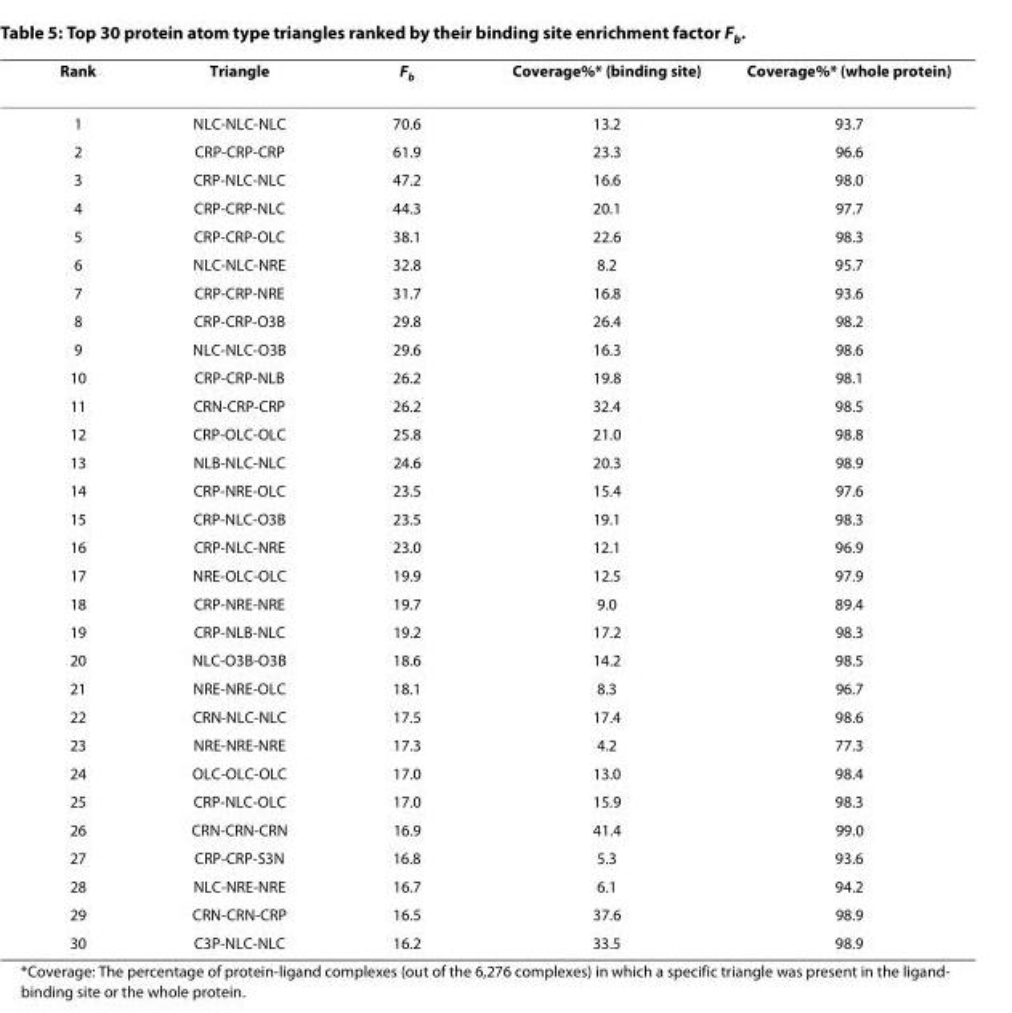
<table><thead><tr><td>Rank</td><td>Triangle</td><td>F<sub>b</sub></td><td>Coverage%* (binding site)</td><td>Coverage%* (whole protein)</td></tr></thead><tbody><tr><td>1</td><td>NLC-NLC-NLC</td><td>70.6</td><td>13.2</td><td>93.7</td></tr><tr><td>2</td><td>CRP-CRP-CRP</td><td>61.9</td><td>23.3</td><td>96.6</td></tr><tr><td>3</td><td>CRP-NLC-NLC</td><td>47.2</td><td>16.6</td><td>98.0</td></tr><tr><td>4</td><td>CRP-CRP-NLC</td><td>44.3</td><td>20.1</td><td>97.7</td></tr><tr><td>5</td><td>CRP-CRP-OLC</td><td>38.1</td><td>22.6</td><td>98.3</td></tr><tr><td>6</td><td>NLC-NLC-NRE</td><td>32.8</td><td>8.2</td><td>95.7</td></tr><tr><td>7</td><td>CRP-CRP-NRE</td><td>31.7</td><td>16.8</td><td>93.6</td></tr><tr><td>8</td><td>CRP-CRP-O3B</td><td>29.8</td><td>26.4</td><td>98.2</td></tr><tr><td>9</td><td>NLC-NLC-O3B</td><td>29.6</td><td>16.3</td><td>98.6</td></tr><tr><td>10</td><td>CRP-CRP-NLB</td><td>26.2</td><td>19.8</td><td>98.1</td></tr><tr><td>11</td><td>CRN-CRP-CRP</td><td>26.2</td><td>32.4</td><td>98.5</td></tr><tr><td>12</td><td>CRP-OLC-OLC</td><td>25.8</td><td>21.0</td><td>98.8</td></tr><tr><td>13</td><td>NLB-NLC-NLC</td><td>24.6</td><td>20.3</td><td>98.9</td></tr><tr><td>14</td><td>CRP-NRE-OLC</td><td>23.5</td><td>15.4</td><td>97.6</td></tr><tr><td>15</td><td>CRP-NLC-O3B</td><td>23.5</td><td>19.1</td><td>98.3</td></tr><tr><td>16</td><td>CRP-NLC-NRE</td><td>23.0</td><td>12.1</td><td>96.9</td></tr><tr><td>17</td><td>NRE-OLC-OLC</td><td>19.9</td><td>12.5</td><td>97.9</td></tr><tr><td>18</td><td>CRP-NRE-NRE</td><td>19.7</td><td>9.0</td><td>89.4</td></tr><tr><td>19</td><td>CRP-NLB-NLC</td><td>19.2</td><td>17.2</td><td>98.3</td></tr><tr><td>20</td><td>NLC-O3B-O3B</td><td>18.6</td><td>14.2</td><td>98.5</td></tr><tr><td>21</td><td>NRE-NRE-OLC</td><td>18.1</td><td>8.3</td><td>96.7</td></tr><tr><td>22</td><td>CRN-NLC-NLC</td><td>17.5</td><td>17.4</td><td>98.6</td></tr><tr><td>23</td><td>NRE-NRE-NRE</td><td>17.3</td><td>4.2</td><td>77.3</td></tr><tr><td>24</td><td>OLC-OLC-OLC</td><td>17.0</td><td>13.0</td><td>98.4</td></tr><tr><td>25</td><td>CRP-NLC-OLC</td><td>17.0</td><td>15.9</td><td>98.3</td></tr><tr><td>26</td><td>CRN-CRN-CRN</td><td>16.9</td><td>41.4</td><td>99.0</td></tr><tr><td>27</td><td>CRP-CRP-S3N</td><td>16.8</td><td>5.3</td><td>93.6</td></tr><tr><td>28</td><td>NLC-NRE-NRE</td><td>16.7</td><td>6.1</td><td>94.2</td></tr><tr><td>29</td><td>CRN-CRN-CRP</td><td>16.5</td><td>37.6</td><td>98.9</td></tr><tr><td>30</td><td>C3P-NLC-NLC</td><td>16.2</td><td>33.5</td><td>98.9</td></tr></tbody></table>